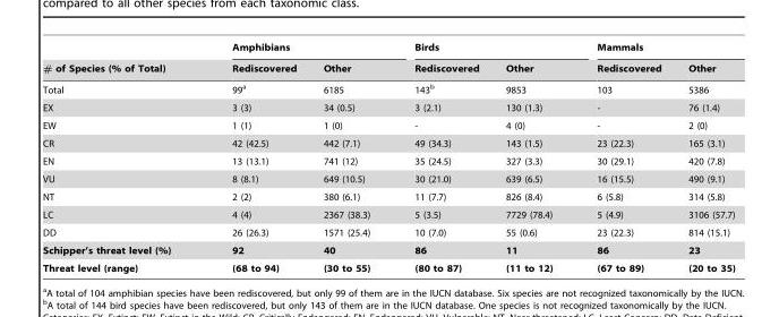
<table><thead><tr><td rowspan="2"># of Species (% of Total)</td><td colspan="2">Amphibians</td><td colspan="2">Birds</td><td colspan="2">Mammals</td></tr><tr><td>Rediscovered</td><td>Other</td><td>Rediscovered</td><td>Other</td><td>Rediscovered</td><td>Other</td></tr></thead><tbody><tr><td>Total</td><td>99<sup>a</sup></td><td>6185</td><td>143<sup>b</sup></td><td>9853</td><td>103</td><td>5386</td></tr><tr><td>EX</td><td>3 (3)</td><td>34 (0.5)</td><td>3 (2.1)</td><td>130 (1.3)</td><td>-</td><td>76 (1.4)</td></tr><tr><td>EW</td><td>1 (1)</td><td>1 (0)</td><td>-</td><td>4 (0)</td><td>-</td><td>2 (0)</td></tr><tr><td>CR</td><td>42 (42.5)</td><td>442 (7.1)</td><td>49 (34.3)</td><td>143 (1.5)</td><td>23 (22.3)</td><td>165 (3.1)</td></tr><tr><td>EN</td><td>13 (13.1)</td><td>741 (12)</td><td>35 (24.5)</td><td>327 (3.3)</td><td>30 (29.1)</td><td>420 (7.8)</td></tr><tr><td>VU</td><td>8 (8.1)</td><td>649 (10.5)</td><td>30 (21.0)</td><td>639 (6.5)</td><td>16 (15.5)</td><td>490 (9.1)</td></tr><tr><td>NT</td><td>2 (2)</td><td>380 (6.1)</td><td>11 (7.7)</td><td>826 (8.4)</td><td>6 (5.8)</td><td>314 (5.8)</td></tr><tr><td>LC</td><td>4 (4)</td><td>2367 (38.3)</td><td>5 (3.5)</td><td>7729 (78.4)</td><td>5 (4.9)</td><td>3106 (57.7)</td></tr><tr><td>DD</td><td>26 (26.3)</td><td>1571 (25.4)</td><td>10 (7.0)</td><td>55 (0.6)</td><td>23 (22.3)</td><td>814 (15.1)</td></tr><tr><td>Schipper’s threat level (%)</td><td>92</td><td>40</td><td>86</td><td>11</td><td>86</td><td>23</td></tr><tr><td>Threat level (range)</td><td>(68 to 94)</td><td>(30 to 55)</td><td>(80 to 87)</td><td>(11 to 12)</td><td>(67 to 89)</td><td>(20 to 35)</td></tr></tbody></table>